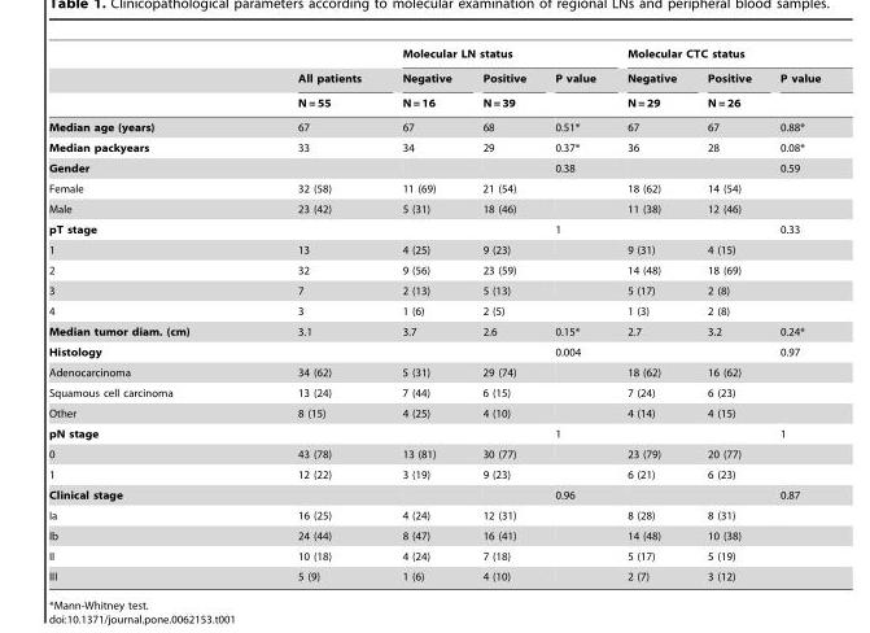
<table><thead><tr><td rowspan="3"></td><td rowspan="3">All patients N = 55</td><td colspan="3">Molecular LN status</td><td colspan="3">Molecular CTC status</td></tr><tr><td rowspan="2">Negative N = 16</td><td rowspan="2">Positive N = 39</td><td rowspan="2">P value</td><td rowspan="2">Negative N = 29</td><td rowspan="2">Positive N = 26</td><td rowspan="2">P value</td></tr><tr></tr></thead><tbody><tr><td>Median age (years)</td><td>67</td><td>67</td><td>68</td><td>0.51*</td><td>67</td><td>67</td><td>0.88*</td></tr><tr><td>Median packyears</td><td>33</td><td>34</td><td>29</td><td>0.37*</td><td>36</td><td>28</td><td>0.08*</td></tr><tr><td>Gender</td><td></td><td></td><td></td><td>0.38</td><td></td><td></td><td>0.59</td></tr><tr><td>Female</td><td>32 (58)</td><td>11 (69)</td><td>21 (54)</td><td></td><td>18 (62)</td><td>14 (54)</td><td></td></tr><tr><td>Male</td><td>23 (42)</td><td>5 (31)</td><td>18 (46)</td><td></td><td>11 (38)</td><td>12 (46)</td><td></td></tr><tr><td>pT stage</td><td></td><td></td><td></td><td>1</td><td></td><td></td><td>0.33</td></tr><tr><td>1</td><td>13</td><td>4 (25)</td><td>9 (23)</td><td></td><td>9 (31)</td><td>4 (15)</td><td></td></tr><tr><td>2</td><td>32</td><td>9 (56)</td><td>23 (59)</td><td></td><td>14 (48)</td><td>18 (69)</td><td></td></tr><tr><td>3</td><td>7</td><td>2 (13)</td><td>5 (13)</td><td></td><td>5 (17)</td><td>2 (8)</td><td></td></tr><tr><td>4</td><td>3</td><td>1 (6)</td><td>2 (5)</td><td></td><td>1 (3)</td><td>2 (8)</td><td></td></tr><tr><td>Median tumor diam. (cm)</td><td>3.1</td><td>3.7</td><td>2.6</td><td>0.15*</td><td>2.7</td><td>3.2</td><td>0.24*</td></tr><tr><td>Histology</td><td></td><td></td><td></td><td>0.004</td><td></td><td></td><td>0.97</td></tr><tr><td>Adenocarcinoma</td><td>34 (62)</td><td>5 (31)</td><td>29 (74)</td><td></td><td>18 (62)</td><td>16 (62)</td><td></td></tr><tr><td>Squamous cell carcinoma</td><td>13 (24)</td><td>7 (44)</td><td>6 (15)</td><td></td><td>7 (24)</td><td>6 (23)</td><td></td></tr><tr><td>Other</td><td>8 (15)</td><td>4 (25)</td><td>4 (10)</td><td></td><td>4 (14)</td><td>4 (15)</td><td></td></tr><tr><td>pN stage</td><td></td><td></td><td></td><td>1</td><td></td><td></td><td>1</td></tr><tr><td>0</td><td>43 (78)</td><td>13 (81)</td><td>30 (77)</td><td></td><td>23 (79)</td><td>20 (77)</td><td></td></tr><tr><td>1</td><td>12 (22)</td><td>3 (19)</td><td>9 (23)</td><td></td><td>6 (21)</td><td>6 (23)</td><td></td></tr><tr><td>Clinical stage</td><td></td><td></td><td></td><td>0.96</td><td></td><td></td><td>0.87</td></tr><tr><td>Ia</td><td>16 (25)</td><td>4 (24)</td><td>12 (31)</td><td></td><td>8 (28)</td><td>8 (31)</td><td></td></tr><tr><td>Ib</td><td>24 (44)</td><td>8 (47)</td><td>16 (41)</td><td></td><td>14 (48)</td><td>10 (38)</td><td></td></tr><tr><td>II</td><td>10 (18)</td><td>4 (24)</td><td>7 (18)</td><td></td><td>5 (17)</td><td>5 (19)</td><td></td></tr><tr><td>III</td><td>5 (9)</td><td>1 (6)</td><td>4 (10)</td><td></td><td>2 (7)</td><td>3 (12)</td><td></td></tr></tbody></table>